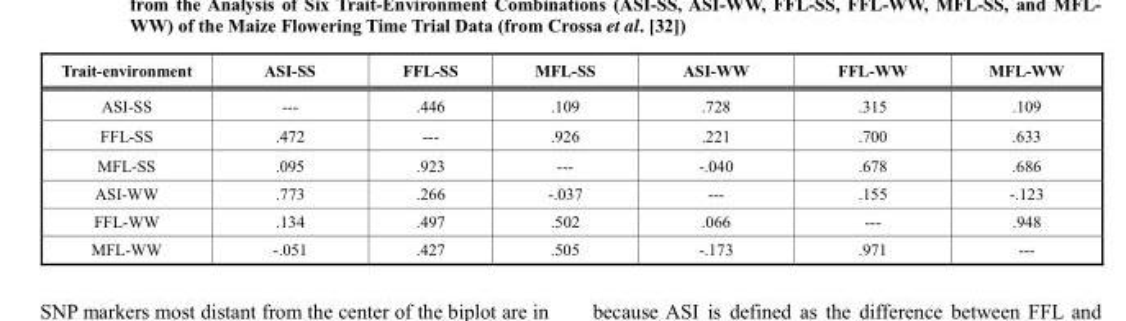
<table><thead><tr><td>Trait-environment</td><td>ASI-SS</td><td>FFL-SS</td><td>MFL-SS</td><td>ASI-WW</td><td>FFL-WW</td><td>MFL-WW</td></tr></thead><tbody><tr><td>ASI-SS</td><td>---</td><td>.446</td><td>.109</td><td>.728</td><td>.315</td><td>.109</td></tr><tr><td>FFL-SS</td><td>.472</td><td>---</td><td>.926</td><td>.221</td><td>.700</td><td>.633</td></tr><tr><td>MFL-SS</td><td>.095</td><td>.923</td><td>---</td><td>-.040</td><td>.678</td><td>.686</td></tr><tr><td>ASI-WW</td><td>.773</td><td>.266</td><td>-.037</td><td>---</td><td>.155</td><td>-.123</td></tr><tr><td>FFL-WW</td><td>.134</td><td>.497</td><td>.502</td><td>.066</td><td>---</td><td>.948</td></tr><tr><td>MFL-WW</td><td>-.051</td><td>.427</td><td>.505</td><td>-.173</td><td>.971</td><td>---</td></tr></tbody></table>